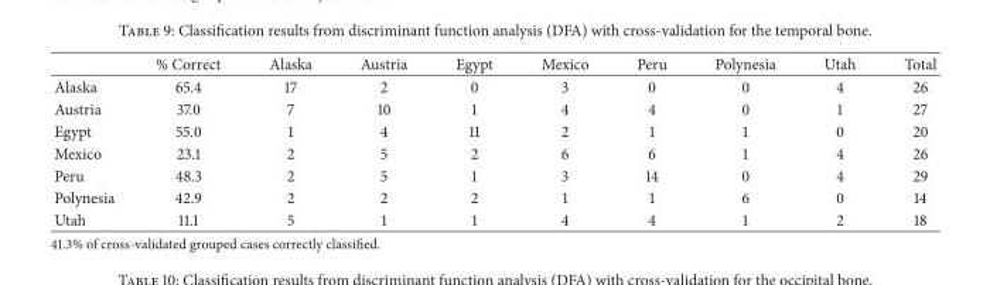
<table><thead><tr><td></td><td>% Correct</td><td>Alaska</td><td>Austria</td><td>Egypt</td><td>Mexico</td><td>Peru</td><td>Polynesia</td><td>Utah</td><td>Total</td></tr></thead><tbody><tr><td>Alaska</td><td>65.4</td><td>17</td><td>2</td><td>0</td><td>3</td><td>0</td><td>0</td><td>4</td><td>26</td></tr><tr><td>Austria</td><td>37.0</td><td>7</td><td>10</td><td>1</td><td>4</td><td>4</td><td>0</td><td>1</td><td>27</td></tr><tr><td>Egypt</td><td>55.0</td><td>1</td><td>4</td><td>11</td><td>2</td><td>1</td><td>1</td><td>0</td><td>20</td></tr><tr><td>Mexico</td><td>23.1</td><td>2</td><td>5</td><td>2</td><td>6</td><td>6</td><td>1</td><td>4</td><td>26</td></tr><tr><td>Peru</td><td>48.3</td><td>2</td><td>5</td><td>1</td><td>3</td><td>14</td><td>0</td><td>4</td><td>29</td></tr><tr><td>Polynesia</td><td>42.9</td><td>2</td><td>2</td><td>2</td><td>1</td><td>1</td><td>6</td><td>0</td><td>14</td></tr><tr><td>Utah</td><td>11.1</td><td>5</td><td>1</td><td>1</td><td>4</td><td>4</td><td>1</td><td>2</td><td>18</td></tr></tbody></table>